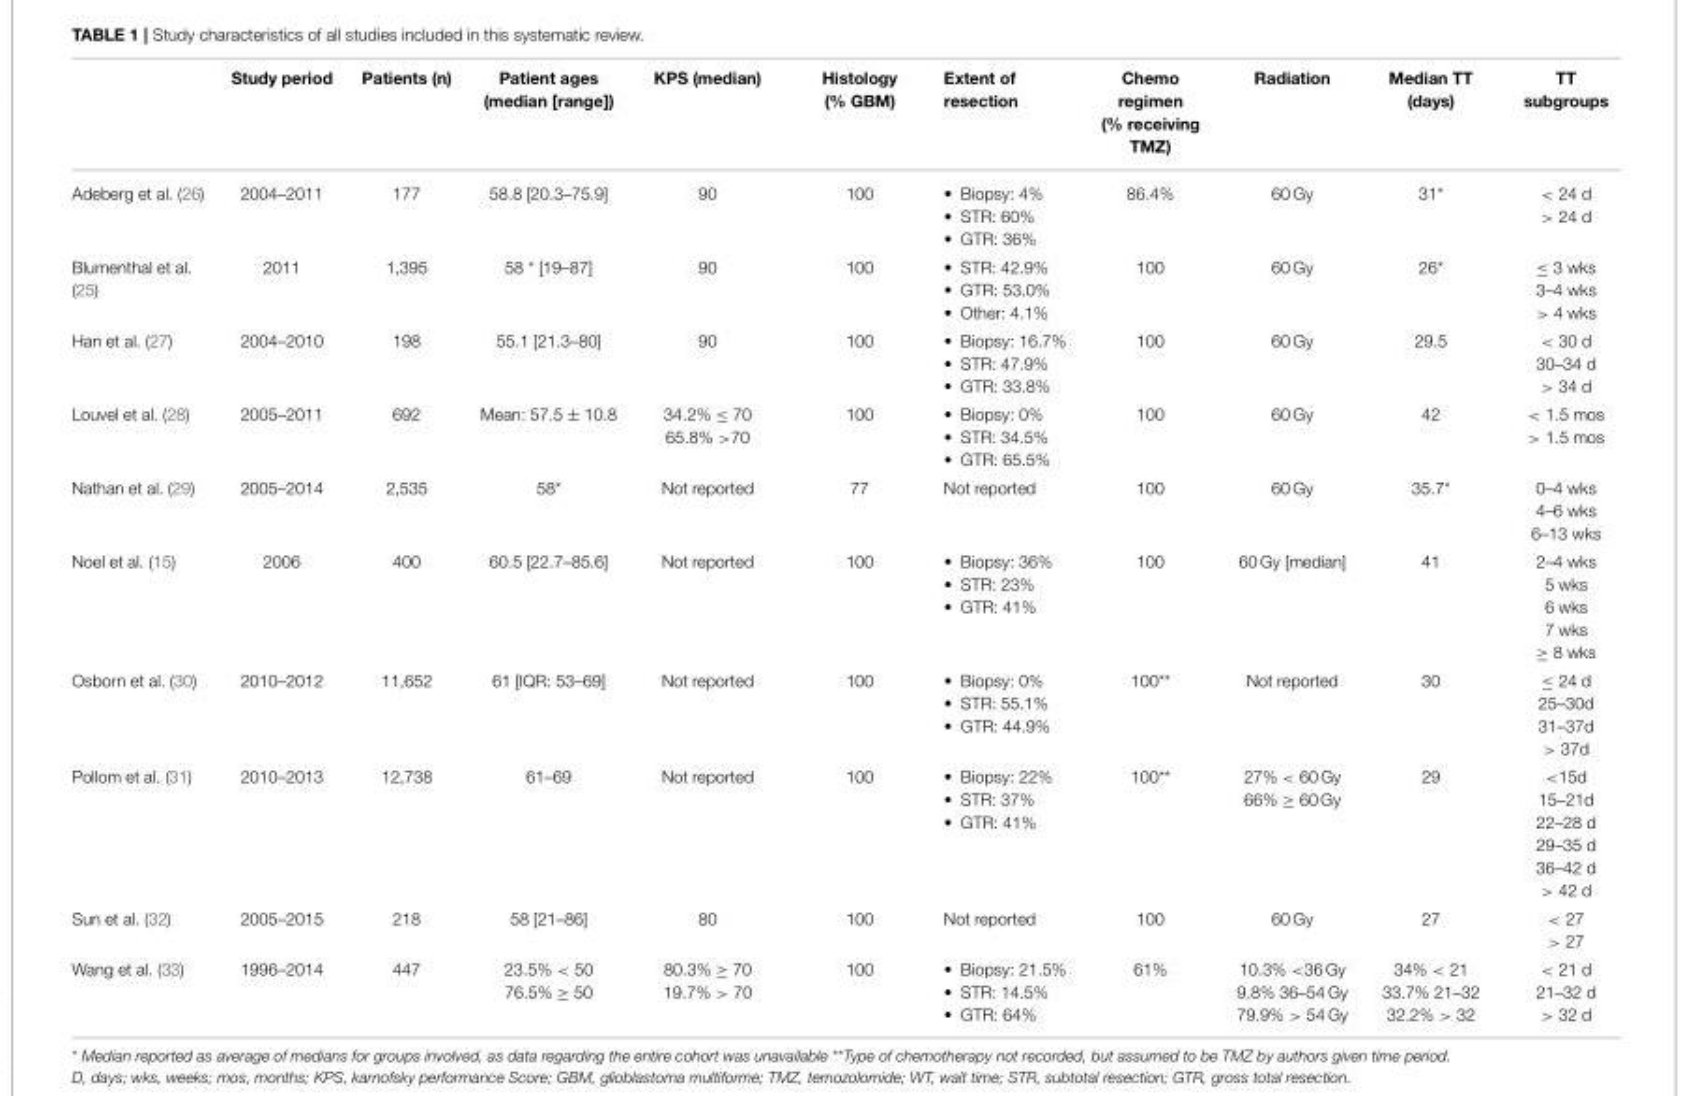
<table><thead><tr><td></td><td>Study period</td><td>Patients (n)</td><td>Patient ages (median [range])</td><td>KPS (median)</td><td>Histology (% GBM)</td><td>Extent of resection</td><td>Chemo regimen (% receiving TMZ)</td><td>Radiation</td><td>Median TT (days)</td><td>TT subgroups</td></tr></thead><tbody><tr><td>Adeberg et al. (26)</td><td>2004–2011</td><td>177</td><td>58.8 [20.3–75.9]</td><td>90</td><td>100</td><td>• Biopsy: 4% • STR: 60% • GTR: 36%</td><td>86.4%</td><td>60 Gy</td><td>31*</td><td>&lt; 24 d &gt; 24 d</td></tr><tr><td>Blumenthal et al. (25)</td><td>2011</td><td>1,395</td><td>58 * [19–87]</td><td>90</td><td>100</td><td>• STR: 42.9% • GTR: 53.0% • Other: 4.1%</td><td>100</td><td>60 Gy</td><td>26*</td><td>≤ 3 wks 3–4 wks &gt; 4 wks</td></tr><tr><td>Han et al. (27)</td><td>2004–2010</td><td>198</td><td>55.1 [21.3–80]</td><td>90</td><td>100</td><td>• Biopsy: 16.7% • STR: 47.9% • GTR: 33.8%</td><td>100</td><td>60 Gy</td><td>29.5</td><td>&lt; 30 d 30–34 d &gt; 34 d</td></tr><tr><td>Louvel et al. (28)</td><td>2005–2011</td><td>692</td><td>Mean: 57.5 ± 10.8</td><td>34.2% ≤ 70 65.8% &gt;70</td><td>100</td><td>• Biopsy: 0% • STR: 34.5% • GTR: 65.5%</td><td>100</td><td>60 Gy</td><td>42</td><td>&lt; 1.5 mos &gt; 1.5 mos</td></tr><tr><td>Nathan et al. (29)</td><td>2005–2014</td><td>2,535</td><td>58*</td><td>Not reported</td><td>77</td><td>Not reported</td><td>100</td><td>60 Gy</td><td>35.7*</td><td>0–4 wks 4–6 wks 6–13 wks</td></tr><tr><td>Noel et al. (15)</td><td>2006</td><td>400</td><td>60.5 [22.7–85.6]</td><td>Not reported</td><td>100</td><td>• Biopsy: 36% • STR: 23% • GTR: 41%</td><td>100</td><td>60 Gy [median]</td><td>41</td><td>2–4 wks 5 wks 6 wks 7 wks ≥ 8 wks</td></tr><tr><td>Osborn et al. (30)</td><td>2010–2012</td><td>11,652</td><td>61 [IQR: 53–69]</td><td>Not reported</td><td>100</td><td>• Biopsy: 0% • STR: 55.1% • GTR: 44.9%</td><td>100**</td><td>Not reported</td><td>30</td><td>≤ 24 d 25–30d 31–37d &gt; 37d</td></tr><tr><td>Pollom et al. (31)</td><td>2010–2013</td><td>12,738</td><td>61–69</td><td>Not reported</td><td>100</td><td>• Biopsy: 22% • STR: 37% • GTR: 41%</td><td>100**</td><td>27% &lt; 60 Gy 66% ≥ 60 Gy</td><td>29</td><td>&lt;15d 15–21d 22–28 d 29–35 d 36–42 d &gt; 42 d</td></tr><tr><td>Sun et al. (32)</td><td>2005–2015</td><td>218</td><td>58 [21–86]</td><td>80</td><td>100</td><td>Not reported</td><td>100</td><td>60 Gy</td><td>27</td><td>&lt; 27 &gt; 27</td></tr><tr><td>Wang et al. (33)</td><td>1996–2014</td><td>447</td><td>23.5% &lt; 50 76.5% ≥ 50</td><td>80.3% ≥ 70 19.7% &gt; 70</td><td>100</td><td>• Biopsy: 21.5% • STR: 14.5% • GTR: 64%</td><td>61%</td><td>10.3% &lt;36 Gy 9.8% 36–54 Gy 79.9% &gt; 54 Gy</td><td>34% &lt; 21 33.7% 21–32 32.2% &gt; 32</td><td>&lt; 21 d 21–32 d &gt; 32 d</td></tr></tbody></table>